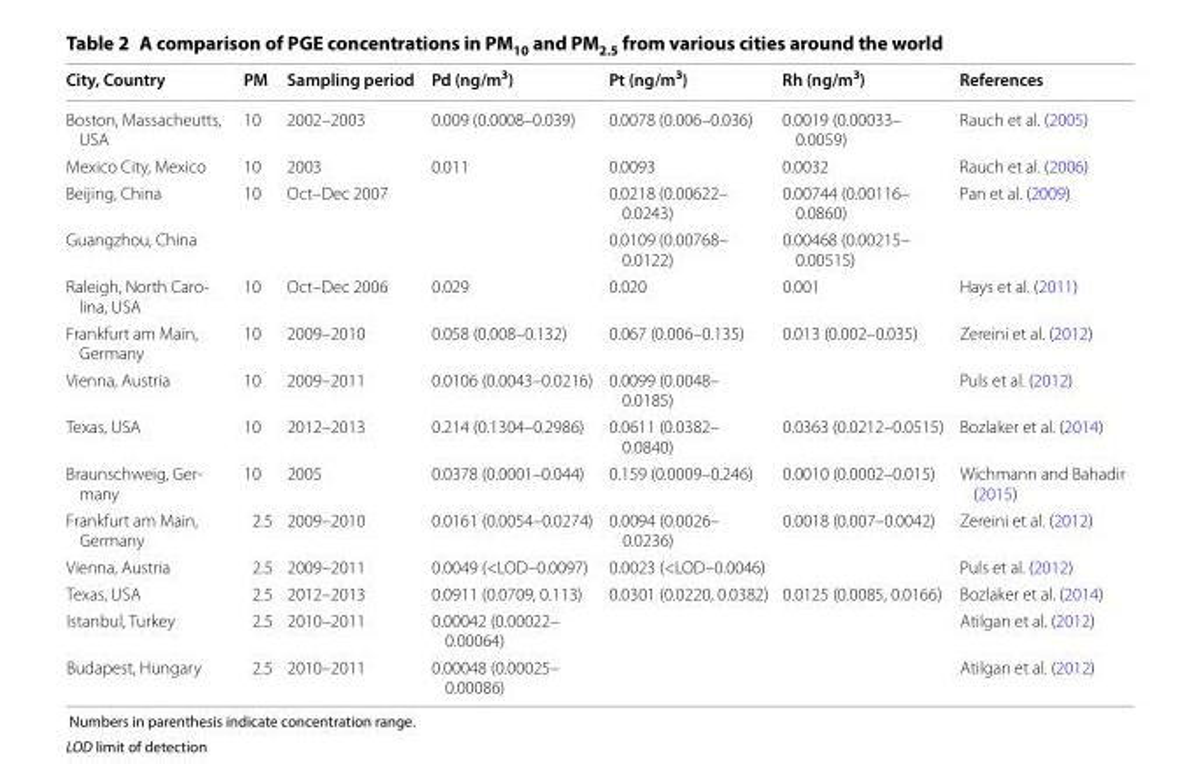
<table><thead><tr><td>City, Country</td><td>PM</td><td>Sampling period</td><td>Pd (ng/m<sup>3</sup>)</td><td>Pt (ng/m<sup>3</sup>)</td><td>Rh (ng/m<sup>3</sup>)</td><td>References</td></tr></thead><tbody><tr><td>Boston, Massacheutts, USA</td><td>10</td><td>2002–2003</td><td>0.009 (0.0008–0.039)</td><td>0.0078 (0.006–0.036)</td><td>0.0019 (0.00033– 0.0059)</td><td>Rauch et al. (2005)</td></tr><tr><td>Mexico City, Mexico</td><td>10</td><td>2003</td><td>0.011</td><td>0.0093</td><td>0.0032</td><td>Rauch et al. (2006)</td></tr><tr><td>Beijing, China</td><td>10</td><td>Oct–Dec 2007</td><td></td><td>0.0218 (0.00622– 0.0243)</td><td>0.00744 (0.00116– 0.0860)</td><td>Pan et al. (2009)</td></tr><tr><td>Guangzhou, China</td><td></td><td></td><td></td><td>0.0109 (0.00768– 0.0122)</td><td>0.00468 (0.00215– 0.00515)</td><td></td></tr><tr><td>Raleigh, North Caro- lina, USA</td><td>10</td><td>Oct–Dec 2006</td><td>0.029</td><td>0.020</td><td>0.001</td><td>Hays et al. (2011)</td></tr><tr><td>Frankfurt am Main, Germany</td><td>10</td><td>2009–2010</td><td>0.058 (0.008–0.132)</td><td>0.067 (0.006–0.135)</td><td>0.013 (0.002–0.035)</td><td>Zereini et al. (2012)</td></tr><tr><td>Vienna, Austria</td><td>10</td><td>2009–2011</td><td>0.0106 (0.0043–0.0216)</td><td>0.0099 (0.0048– 0.0185)</td><td></td><td>Puls et al. (2012)</td></tr><tr><td>Texas, USA</td><td>10</td><td>2012–2013</td><td>0.214 (0.1304–0.2986)</td><td>0.0611 (0.0382– 0.0840)</td><td>0.0363 (0.0212–0.0515)</td><td>Bozlaker et al. (2014)</td></tr><tr><td>Braunschweig, Ger- many</td><td>10</td><td>2005</td><td>0.0378 (0.0001–0.044)</td><td>0.159 (0.0009–0.246)</td><td>0.0010 (0.0002–0.015)</td><td>Wichmann and Bahadir (2015)</td></tr><tr><td>Frankfurt am Main, Germany</td><td>2.5</td><td>2009–2010</td><td>0.0161 (0.0054–0.0274)</td><td>0.0094 (0.0026– 0.0236)</td><td>0.0018 (0.007–0.0042)</td><td>Zereini et al. (2012)</td></tr><tr><td>Vienna, Austria</td><td>2.5</td><td>2009–2011</td><td>0.0049 (&lt;LOD–0.0097)</td><td>0.0023 (&lt;LOD–0.0046)</td><td></td><td>Puls et al. (2012)</td></tr><tr><td>Texas, USA</td><td>2.5</td><td>2012–2013</td><td>0.0911 (0.0709, 0.113)</td><td>0.0301 (0.0220, 0.0382)</td><td>0.0125 (0.0085, 0.0166)</td><td>Bozlaker et al. (2014)</td></tr><tr><td>Istanbul, Turkey</td><td>2.5</td><td>2010–2011</td><td>0.00042 (0.00022– 0.00064)</td><td></td><td></td><td>Atilgan et al. (2012)</td></tr><tr><td>Budapest, Hungary</td><td>2.5</td><td>2010–2011</td><td>0.00048 (0.00025– 0.00086)</td><td></td><td></td><td>Atilgan et al. (2012)</td></tr></tbody></table>